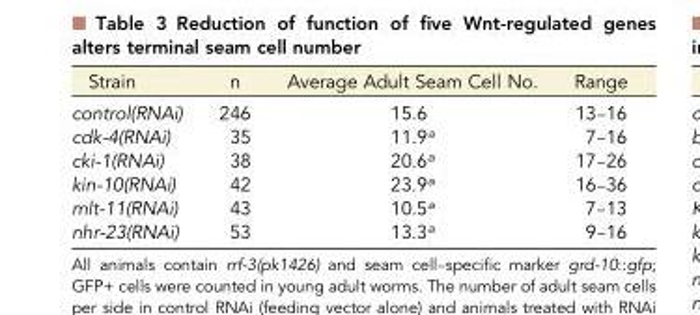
<table><thead><tr><td>Strain</td><td>n</td><td>Average Adult Seam Cell No.</td><td>Range</td></tr></thead><tbody><tr><td>control(RNAi)</td><td>246</td><td>15.6</td><td>13–16</td></tr><tr><td>cdk-4(RNAi)</td><td>35</td><td>11.9<sup>a</sup></td><td>7–16</td></tr><tr><td>cki-1(RNAi)</td><td>38</td><td>20.6<sup>a</sup></td><td>17–26</td></tr><tr><td>kin-10(RNAi)</td><td>42</td><td>23.9<sup>a</sup></td><td>16–36</td></tr><tr><td>mlt-11(RNAi)</td><td>43</td><td>10.5<sup>a</sup></td><td>7–13</td></tr><tr><td>nhr-23(RNAi)</td><td>53</td><td>13.3<sup>a</sup></td><td>9–16</td></tr></tbody></table>